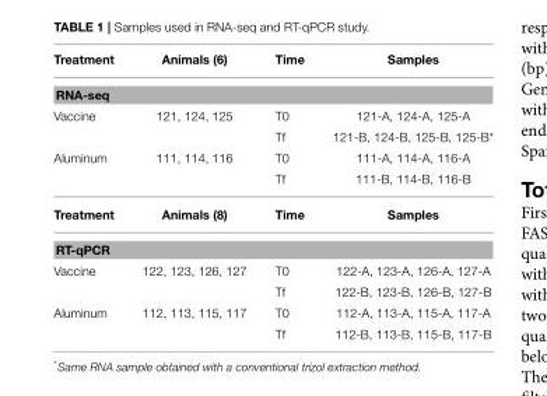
<table><thead><tr><td>Treatment</td><td>Animals (6)</td><td>Time</td><td>Samples</td></tr></thead><tbody><tr><td colspan="4">RNA-seq</td></tr><tr><td rowspan="2">Vaccine</td><td>121, 124, 125</td><td>T0</td><td>121-A, 124-A, 125-A</td></tr><tr><td></td><td>Tf</td><td>121-B, 124-B, 125-B, 125-B*</td></tr><tr><td rowspan="2">Aluminum</td><td>111, 114, 116</td><td>T0</td><td>111-A, 114-A, 116-A</td></tr><tr><td></td><td>Tf</td><td>111-B, 114-B, 116-B</td></tr><tr><td>Treatment</td><td>Animals (8)</td><td>Time</td><td>Samples</td></tr><tr><td colspan="4">RT-qPCR</td></tr><tr><td rowspan="2">Vaccine</td><td>122, 123, 126, 127</td><td>T0</td><td>122-A, 123-A, 126-A, 127-A</td></tr><tr><td></td><td>Tf</td><td>122-B, 123-B, 126-B, 127-B</td></tr><tr><td rowspan="2">Aluminum</td><td>112, 113, 115, 117</td><td>T0</td><td>112-A, 113-A, 115-A, 117-A</td></tr><tr><td></td><td>Tf</td><td>112-B, 113-B, 115-B, 117-B</td></tr></tbody></table>